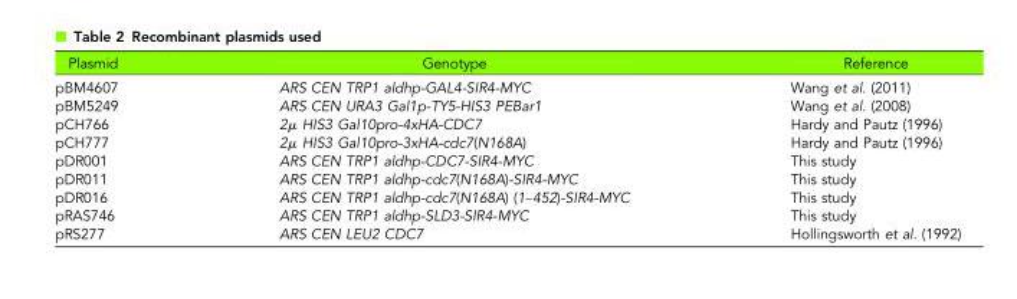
<table><thead><tr><td>Plasmid</td><td>Genotype</td><td>Reference</td></tr></thead><tbody><tr><td>pBM4607</td><td>ARS CEN TRP1 aldhp-GAL4-SIR4-MYC</td><td>Wang et al. (2011)</td></tr><tr><td>pBM5249</td><td>ARS CEN URA3 Gal1p-TY5-HIS3 PEBar1</td><td>Wang et al. (2008)</td></tr><tr><td>pCH766</td><td>2µ HIS3 Gal10pro-4xHA-CDC7</td><td>Hardy and Pautz (1996)</td></tr><tr><td>pCH777</td><td>2µ HIS3 Gal10pro-3xHA-cdc7(N168A)</td><td>Hardy and Pautz (1996)</td></tr><tr><td>pDR001</td><td>ARS CEN TRP1 aldhp-CDC7-SIR4-MYC</td><td>This study</td></tr><tr><td>pDR011</td><td>ARS CEN TRP1 aldhp-cdc7(N168A)-SIR4-MYC</td><td>This study</td></tr><tr><td>pDR016</td><td>ARS CEN TRP1 aldhp-cdc7(N168A) (1–452)-SIR4-MYC</td><td>This study</td></tr><tr><td>pRAS746</td><td>ARS CEN TRP1 aldhp-SLD3-SIR4-MYC</td><td>This study</td></tr><tr><td>pRS277</td><td>ARS CEN LEU2 CDC7</td><td>Hollingsworth et al. (1992)</td></tr></tbody></table>